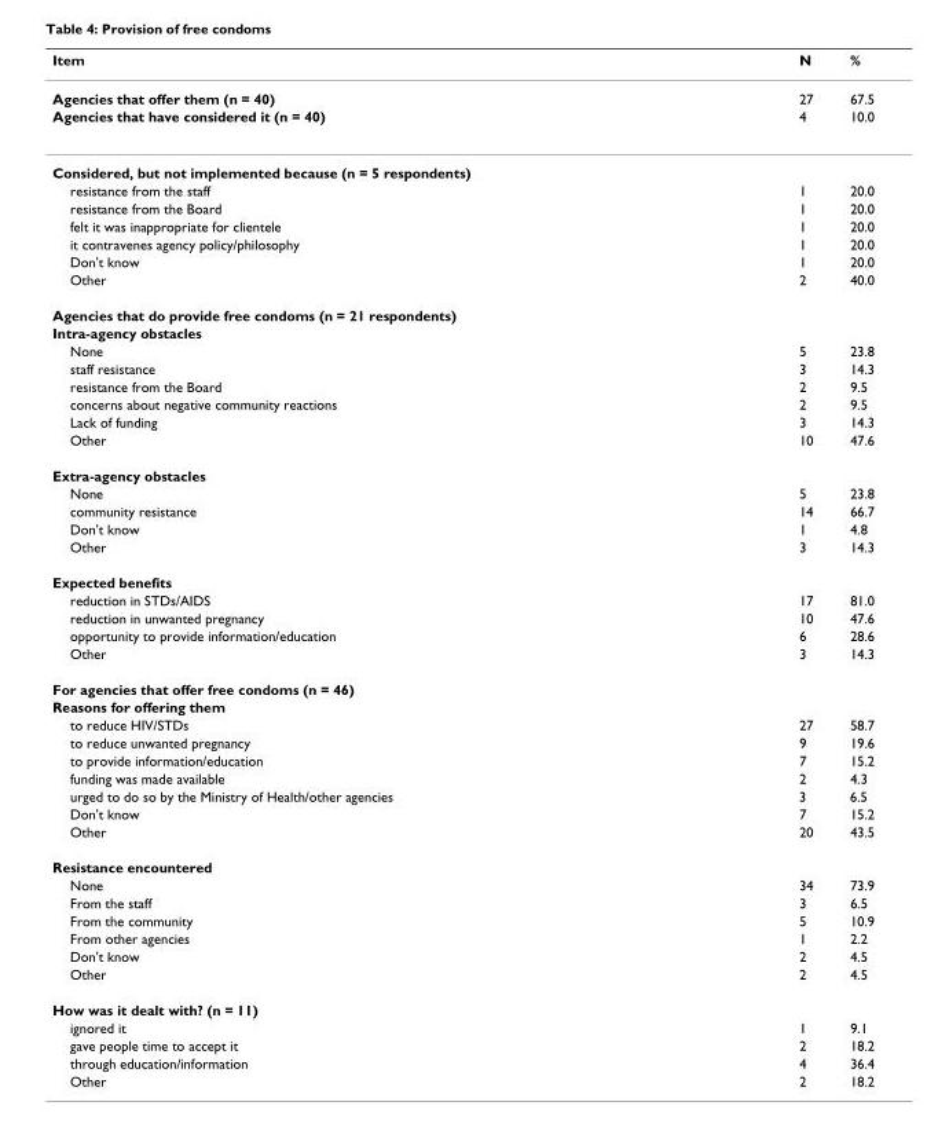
<table><thead><tr><td>Item</td><td>N</td><td>%</td></tr></thead><tbody><tr><td>Agencies that offer them (n = 40)</td><td>27</td><td>67.5</td></tr><tr><td>Agencies that have considered it (n = 40)</td><td>4</td><td>10.0</td></tr><tr><td colspan="3">Considered, but not implemented because (n = 5 respondents)</td></tr><tr><td>resistance from the staff</td><td>1</td><td>20.0</td></tr><tr><td>resistance from the Board</td><td>1</td><td>20.0</td></tr><tr><td>felt it was inappropriate for clientele</td><td>1</td><td>20.0</td></tr><tr><td>it contravenes agency policy/philosophy</td><td>1</td><td>20.0</td></tr><tr><td>Don&#x27;t know</td><td>1</td><td>20.0</td></tr><tr><td>Other</td><td>2</td><td>40.0</td></tr><tr><td colspan="3">Agencies that do provide free condoms (n = 21 respondents)</td></tr><tr><td colspan="3">Intra-agency obstacles</td></tr><tr><td>None</td><td>5</td><td>23.8</td></tr><tr><td>staff resistance</td><td>3</td><td>14.3</td></tr><tr><td>resistance from the Board</td><td>2</td><td>9.5</td></tr><tr><td>concerns about negative community reactions</td><td>2</td><td>9.5</td></tr><tr><td>Lack of funding</td><td>3</td><td>14.3</td></tr><tr><td>Other</td><td>10</td><td>47.6</td></tr><tr><td colspan="3">Extra-agency obstacles</td></tr><tr><td>None</td><td>5</td><td>23.8</td></tr><tr><td>community resistance</td><td>14</td><td>66.7</td></tr><tr><td>Don&#x27;t know</td><td>1</td><td>4.8</td></tr><tr><td>Other</td><td>3</td><td>14.3</td></tr><tr><td colspan="3">Expected benefits</td></tr><tr><td>reduction in STDs/AIDS</td><td>17</td><td>81.0</td></tr><tr><td>reduction in unwanted pregnancy</td><td>10</td><td>47.6</td></tr><tr><td>opportunity to provide information/education</td><td>6</td><td>28.6</td></tr><tr><td>Other</td><td>3</td><td>14.3</td></tr><tr><td colspan="3">For agencies that offer free condoms (n = 46)</td></tr><tr><td colspan="3">Reasons for offering them</td></tr><tr><td>to reduce HIV/STDs</td><td>27</td><td>58.7</td></tr><tr><td>to reduce unwanted pregnancy</td><td>9</td><td>19.6</td></tr><tr><td>to provide information/education</td><td>7</td><td>15.2</td></tr><tr><td>funding was made available</td><td>2</td><td>4.3</td></tr><tr><td>urged to do so by the Ministry of Health/other agencies</td><td>3</td><td>6.5</td></tr><tr><td>Don&#x27;t know</td><td>7</td><td>15.2</td></tr><tr><td>Other</td><td>20</td><td>43.5</td></tr><tr><td colspan="3">Resistance encountered</td></tr><tr><td>None</td><td>34</td><td>73.9</td></tr><tr><td>From the staff</td><td>3</td><td>6.5</td></tr><tr><td>From the community</td><td>5</td><td>10.9</td></tr><tr><td>From other agencies</td><td>1</td><td>2.2</td></tr><tr><td>Don&#x27;t know</td><td>2</td><td>4.5</td></tr><tr><td>Other</td><td>2</td><td>4.5</td></tr><tr><td colspan="3">How was it dealt with? (n = 11)</td></tr><tr><td>ignored it</td><td>1</td><td>9.1</td></tr><tr><td>gave people time to accept it</td><td>2</td><td>18.2</td></tr><tr><td>through education/information</td><td>4</td><td>36.4</td></tr><tr><td>Other</td><td>2</td><td>18.2</td></tr></tbody></table>